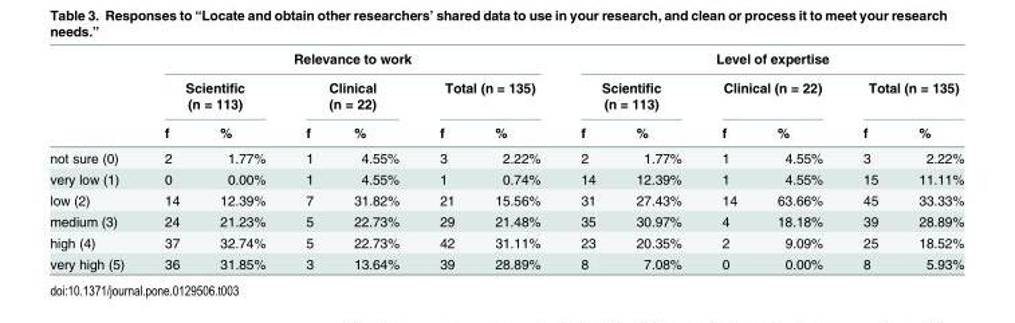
<table><thead><tr><td rowspan="3"></td><td colspan="6">Relevance to work</td><td colspan="6">Level of expertise</td></tr><tr><td colspan="2">Scientific (n = 113)</td><td colspan="2">Clinical (n = 22)</td><td colspan="2">Total (n = 135)</td><td colspan="2">Scientific (n = 113)</td><td colspan="2">Clinical (n = 22)</td><td colspan="2">Total (n = 135)</td></tr><tr><td>f</td><td>%</td><td>f</td><td>%</td><td>f</td><td>%</td><td>f</td><td>%</td><td>f</td><td>%</td><td>f</td><td>%</td></tr></thead><tbody><tr><td>not sure (0)</td><td>2</td><td>1.77%</td><td>1</td><td>4.55%</td><td>3</td><td>2.22%</td><td>2</td><td>1.77%</td><td>1</td><td>4.55%</td><td>3</td><td>2.22%</td></tr><tr><td>very low (1)</td><td>0</td><td>0.00%</td><td>1</td><td>4.55%</td><td>1</td><td>0.74%</td><td>14</td><td>12.39%</td><td>1</td><td>4.55%</td><td>15</td><td>11.11%</td></tr><tr><td>low (2)</td><td>14</td><td>12.39%</td><td>7</td><td>31.82%</td><td>21</td><td>15.56%</td><td>31</td><td>27.43%</td><td>14</td><td>63.66%</td><td>45</td><td>33.33%</td></tr><tr><td>medium (3)</td><td>24</td><td>21.23%</td><td>5</td><td>22.73%</td><td>29</td><td>21.48%</td><td>35</td><td>30.97%</td><td>4</td><td>18.18%</td><td>39</td><td>28.89%</td></tr><tr><td>high (4)</td><td>37</td><td>32.74%</td><td>5</td><td>22.73%</td><td>42</td><td>31.11%</td><td>23</td><td>20.35%</td><td>2</td><td>9.09%</td><td>25</td><td>18.52%</td></tr><tr><td>very high (5)</td><td>36</td><td>31.85%</td><td>3</td><td>13.64%</td><td>39</td><td>28.89%</td><td>8</td><td>7.08%</td><td>0</td><td>0.00%</td><td>8</td><td>5.93%</td></tr></tbody></table>